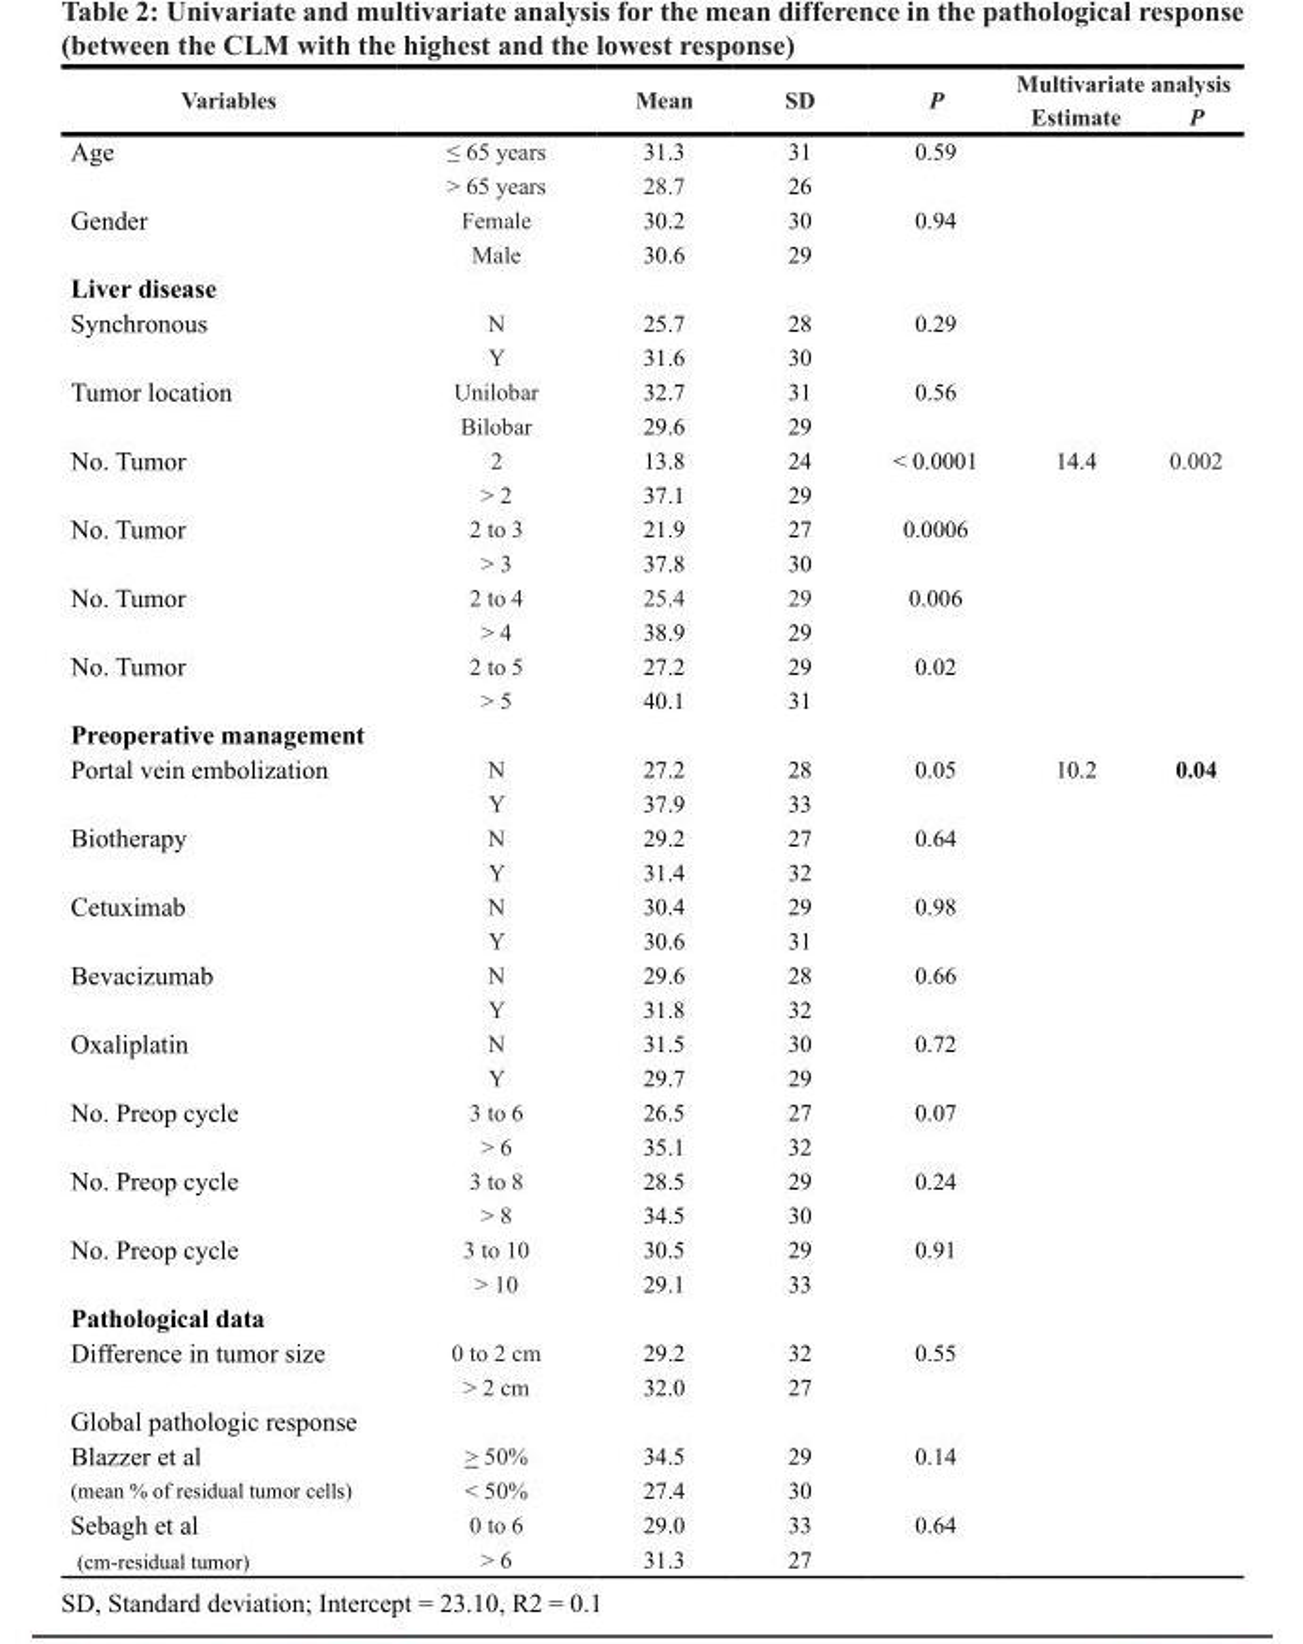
<table><thead><tr><td rowspan="2">Variables</td><td rowspan="2"></td><td rowspan="2">Mean</td><td rowspan="2">SD</td><td rowspan="2">P</td><td colspan="2">Multivariate analysis</td></tr><tr><td>Estimate</td><td>P</td></tr></thead><tbody><tr><td rowspan="2">Age</td><td>≤ 65 years</td><td>31.3</td><td>31</td><td>0.59</td><td></td><td></td></tr><tr><td>&gt; 65 years</td><td>28.7</td><td>26</td><td></td><td></td><td></td></tr><tr><td rowspan="2">Gender</td><td>Female</td><td>30.2</td><td>30</td><td>0.94</td><td></td><td></td></tr><tr><td>Male</td><td>30.6</td><td>29</td><td></td><td></td><td></td></tr><tr><td colspan="7">Liver disease</td></tr><tr><td rowspan="2">Synchronous</td><td>N</td><td>25.7</td><td>28</td><td>0.29</td><td></td><td></td></tr><tr><td>Y</td><td>31.6</td><td>30</td><td></td><td></td><td></td></tr><tr><td rowspan="2">Tumor location</td><td>Unilobar</td><td>32.7</td><td>31</td><td>0.56</td><td></td><td></td></tr><tr><td>Bilobar</td><td>29.6</td><td>29</td><td></td><td></td><td></td></tr><tr><td rowspan="2">No. Tumor</td><td>2</td><td>13.8</td><td>24</td><td>&lt; 0.0001</td><td>14.4</td><td>0.002</td></tr><tr><td>&gt; 2</td><td>37.1</td><td>29</td><td></td><td></td><td></td></tr><tr><td rowspan="2">No. Tumor</td><td>2 to 3</td><td>21.9</td><td>27</td><td>0.0006</td><td></td><td></td></tr><tr><td>&gt; 3</td><td>37.8</td><td>30</td><td></td><td></td><td></td></tr><tr><td rowspan="2">No. Tumor</td><td>2 to 4</td><td>25.4</td><td>29</td><td>0.006</td><td></td><td></td></tr><tr><td>&gt; 4</td><td>38.9</td><td>29</td><td></td><td></td><td></td></tr><tr><td rowspan="2">No. Tumor</td><td>2 to 5</td><td>27.2</td><td>29</td><td>0.02</td><td></td><td></td></tr><tr><td>&gt; 5</td><td>40.1</td><td>31</td><td></td><td></td><td></td></tr><tr><td colspan="7">Preoperative management</td></tr><tr><td rowspan="2">Portal vein embolization</td><td>N</td><td>27.2</td><td>28</td><td>0.05</td><td>10.2</td><td>0.04</td></tr><tr><td>Y</td><td>37.9</td><td>33</td><td></td><td></td><td></td></tr><tr><td rowspan="2">Biotherapy</td><td>N</td><td>29.2</td><td>27</td><td>0.64</td><td></td><td></td></tr><tr><td>Y</td><td>31.4</td><td>32</td><td></td><td></td><td></td></tr><tr><td rowspan="2">Cetuximab</td><td>N</td><td>30.4</td><td>29</td><td>0.98</td><td></td><td></td></tr><tr><td>Y</td><td>30.6</td><td>31</td><td></td><td></td><td></td></tr><tr><td rowspan="2">Bevacizumab</td><td>N</td><td>29.6</td><td>28</td><td>0.66</td><td></td><td></td></tr><tr><td>Y</td><td>31.8</td><td>32</td><td></td><td></td><td></td></tr><tr><td rowspan="2">Oxaliplatin</td><td>N</td><td>31.5</td><td>30</td><td>0.72</td><td></td><td></td></tr><tr><td>Y</td><td>29.7</td><td>29</td><td></td><td></td><td></td></tr><tr><td rowspan="2">No. Preop cycle</td><td>3 to 6</td><td>26.5</td><td>27</td><td>0.07</td><td></td><td></td></tr><tr><td>&gt; 6</td><td>35.1</td><td>32</td><td></td><td></td><td></td></tr><tr><td rowspan="2">No. Preop cycle</td><td>3 to 8</td><td>28.5</td><td>29</td><td>0.24</td><td></td><td></td></tr><tr><td>&gt; 8</td><td>34.5</td><td>30</td><td></td><td></td><td></td></tr><tr><td rowspan="2">No. Preop cycle</td><td>3 to 10</td><td>30.5</td><td>29</td><td>0.91</td><td></td><td></td></tr><tr><td>&gt; 10</td><td>29.1</td><td>33</td><td></td><td></td><td></td></tr><tr><td colspan="7">Pathological data</td></tr><tr><td rowspan="2">Difference in tumor size</td><td>0 to 2 cm</td><td>29.2</td><td>32</td><td>0.55</td><td></td><td></td></tr><tr><td>&gt; 2 cm</td><td>32.0</td><td>27</td><td></td><td></td><td></td></tr><tr><td colspan="7">Global pathologic response</td></tr><tr><td>Blazzer et al</td><td>&gt; 50%</td><td>34.5</td><td>29</td><td>0.14</td><td></td><td></td></tr><tr><td>(mean % of residual tumor cells)</td><td>&lt; 50%</td><td>27.4</td><td>30</td><td></td><td></td><td></td></tr><tr><td>Sebagh et al</td><td>0 to 6</td><td>29.0</td><td>33</td><td>0.64</td><td></td><td></td></tr><tr><td>(cm-residual tumor)</td><td>&gt; 6</td><td>31.3</td><td>27</td><td></td><td></td><td></td></tr></tbody></table>